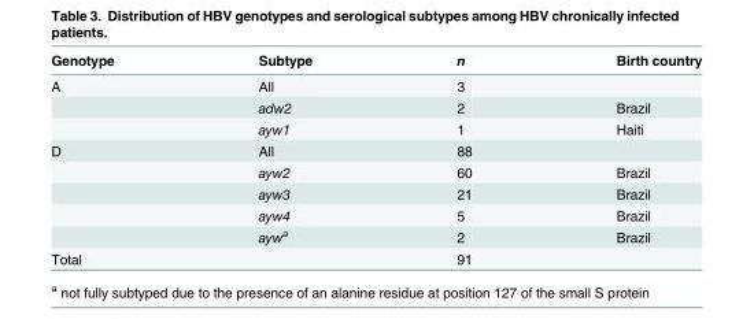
<table><thead><tr><td>Genotype</td><td>Subtype</td><td>n</td><td>Birth country</td></tr></thead><tbody><tr><td rowspan="3">A</td><td>All</td><td>3</td><td></td></tr><tr><td>adw2</td><td>2</td><td>Brazil</td></tr><tr><td>ayw1</td><td>1</td><td>Haiti</td></tr><tr><td rowspan="5">D</td><td>All</td><td>88</td><td></td></tr><tr><td>ayw2</td><td>60</td><td>Brazil</td></tr><tr><td>ayw3</td><td>21</td><td>Brazil</td></tr><tr><td>ayw4</td><td>5</td><td>Brazil</td></tr><tr><td>ayw<sup>a</sup></td><td>2</td><td>Brazil</td></tr><tr><td>Total</td><td></td><td>91</td><td></td></tr></tbody></table>